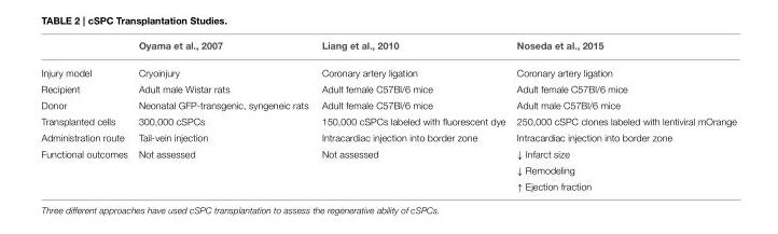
<table><thead><tr><td></td><td>Oyama et al., 2007</td><td>Liang et al., 2010</td><td>Noseda et al., 2015</td></tr></thead><tbody><tr><td>Injury model</td><td>Cryoinjury</td><td>Coronary artery ligation</td><td>Coronary artery ligation</td></tr><tr><td>Recipient</td><td>Adult male Wistar rats</td><td>Adult female C57Bl/6 mice</td><td>Adult female C57Bl/6 mice</td></tr><tr><td>Donor</td><td>Neonatal GFP-transgenic, syngeneic rats</td><td>Adult female C57Bl/6 mice</td><td>Adult male C57Bl/6 mice</td></tr><tr><td>Transplanted cells</td><td>300,000 cSPCs</td><td>150,000 cSPCs labeled with fluorescent dye</td><td>250,000 cSPC clones labeled with lentiviral mOrange</td></tr><tr><td>Administration route</td><td>Tail-vein injection</td><td>Intracardiac injection into border zone</td><td>Intracardiac injection into border zone</td></tr><tr><td rowspan="3">Functional outcomes</td><td>Not assessed</td><td>Not assessed</td><td>↓ Infarct size</td></tr><tr><td></td><td></td><td>↓ Remodeling</td></tr><tr><td></td><td></td><td>↑ Ejection fraction</td></tr></tbody></table>